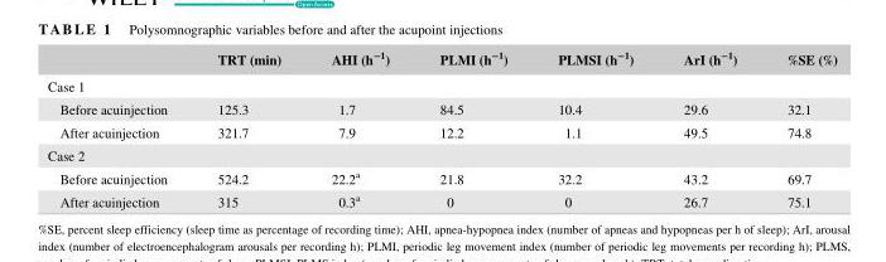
<table><thead><tr><td></td><td>TRT (min)</td><td>AHI (h<sup>−1</sup>)</td><td>PLMI (h<sup>−1</sup>)</td><td>PLMSI (h<sup>−1</sup>)</td><td>ArI (h<sup>−1</sup>)</td><td>%SE (%)</td></tr></thead><tbody><tr><td colspan="7">Case 1</td></tr><tr><td>Before acuinjection</td><td>125.3</td><td>1.7</td><td>84.5</td><td>10.4</td><td>29.6</td><td>32.1</td></tr><tr><td>After acuinjection</td><td>321.7</td><td>7.9</td><td>12.2</td><td>1.1</td><td>49.5</td><td>74.8</td></tr><tr><td colspan="7">Case 2</td></tr><tr><td>Before acuinjection</td><td>524.2</td><td>22.2<sup>a</sup></td><td>21.8</td><td>32.2</td><td>43.2</td><td>69.7</td></tr><tr><td>After acuinjection</td><td>315</td><td>0.3<sup>a</sup></td><td>0</td><td>0</td><td>26.7</td><td>75.1</td></tr></tbody></table>